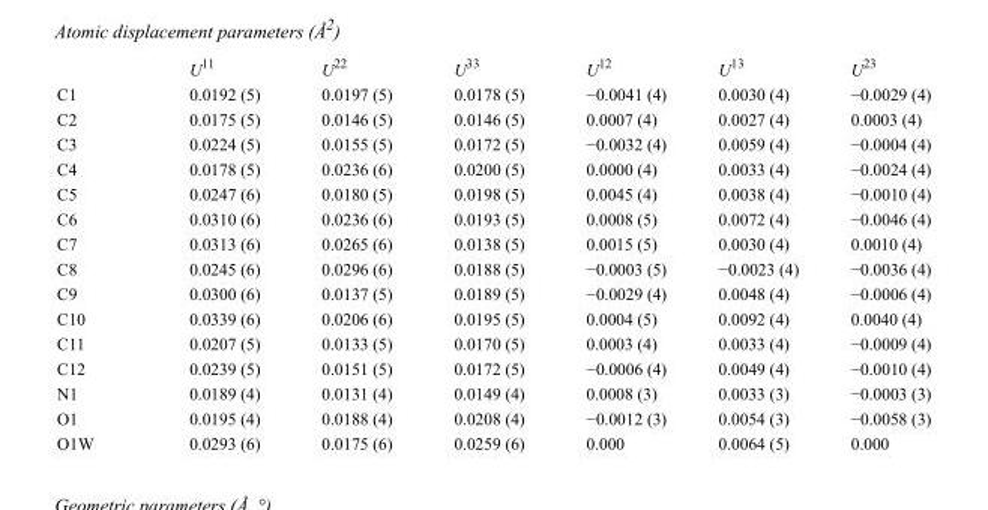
<table><thead><tr><td></td><td>U<sup>11</sup></td><td>U<sup>22</sup></td><td>U<sup>33</sup></td><td>U<sup>12</sup></td><td>U<sup>13</sup></td><td>U<sup>23</sup></td></tr></thead><tbody><tr><td>C1</td><td>0.0192 (5)</td><td>0.0197 (5)</td><td>0.0178 (5)</td><td>−0.0041 (4)</td><td>0.0030 (4)</td><td>−0.0029 (4)</td></tr><tr><td>C2</td><td>0.0175 (5)</td><td>0.0146 (5)</td><td>0.0146 (5)</td><td>0.0007 (4)</td><td>0.0027 (4)</td><td>0.0003 (4)</td></tr><tr><td>C3</td><td>0.0224 (5)</td><td>0.0155 (5)</td><td>0.0172 (5)</td><td>−0.0032 (4)</td><td>0.0059 (4)</td><td>−0.0004 (4)</td></tr><tr><td>C4</td><td>0.0178 (5)</td><td>0.0236 (6)</td><td>0.0200 (5)</td><td>0.0000 (4)</td><td>0.0033 (4)</td><td>−0.0024 (4)</td></tr><tr><td>C5</td><td>0.0247 (6)</td><td>0.0180 (5)</td><td>0.0198 (5)</td><td>0.0045 (4)</td><td>0.0038 (4)</td><td>−0.0010 (4)</td></tr><tr><td>C6</td><td>0.0310 (6)</td><td>0.0236 (6)</td><td>0.0193 (5)</td><td>0.0008 (5)</td><td>0.0072 (4)</td><td>−0.0046 (4)</td></tr><tr><td>C7</td><td>0.0313 (6)</td><td>0.0265 (6)</td><td>0.0138 (5)</td><td>0.0015 (5)</td><td>0.0030 (4)</td><td>0.0010 (4)</td></tr><tr><td>C8</td><td>0.0245 (6)</td><td>0.0296 (6)</td><td>0.0188 (5)</td><td>−0.0003 (5)</td><td>−0.0023 (4)</td><td>−0.0036 (4)</td></tr><tr><td>C9</td><td>0.0300 (6)</td><td>0.0137 (5)</td><td>0.0189 (5)</td><td>−0.0029 (4)</td><td>0.0048 (4)</td><td>−0.0006 (4)</td></tr><tr><td>C10</td><td>0.0339 (6)</td><td>0.0206 (6)</td><td>0.0195 (5)</td><td>0.0004 (5)</td><td>0.0092 (4)</td><td>0.0040 (4)</td></tr><tr><td>C11</td><td>0.0207 (5)</td><td>0.0133 (5)</td><td>0.0170 (5)</td><td>0.0003 (4)</td><td>0.0033 (4)</td><td>−0.0009 (4)</td></tr><tr><td>C12</td><td>0.0239 (5)</td><td>0.0151 (5)</td><td>0.0172 (5)</td><td>−0.0006 (4)</td><td>0.0049 (4)</td><td>−0.0010 (4)</td></tr><tr><td>N1</td><td>0.0189 (4)</td><td>0.0131 (4)</td><td>0.0149 (4)</td><td>0.0008 (3)</td><td>0.0033 (3)</td><td>−0.0003 (3)</td></tr><tr><td>O1</td><td>0.0195 (4)</td><td>0.0188 (4)</td><td>0.0208 (4)</td><td>−0.0012 (3)</td><td>0.0054 (3)</td><td>−0.0058 (3)</td></tr><tr><td>O1W</td><td>0.0293 (6)</td><td>0.0175 (6)</td><td>0.0259 (6)</td><td>0.000</td><td>0.0064 (5)</td><td>0.000</td></tr></tbody></table>